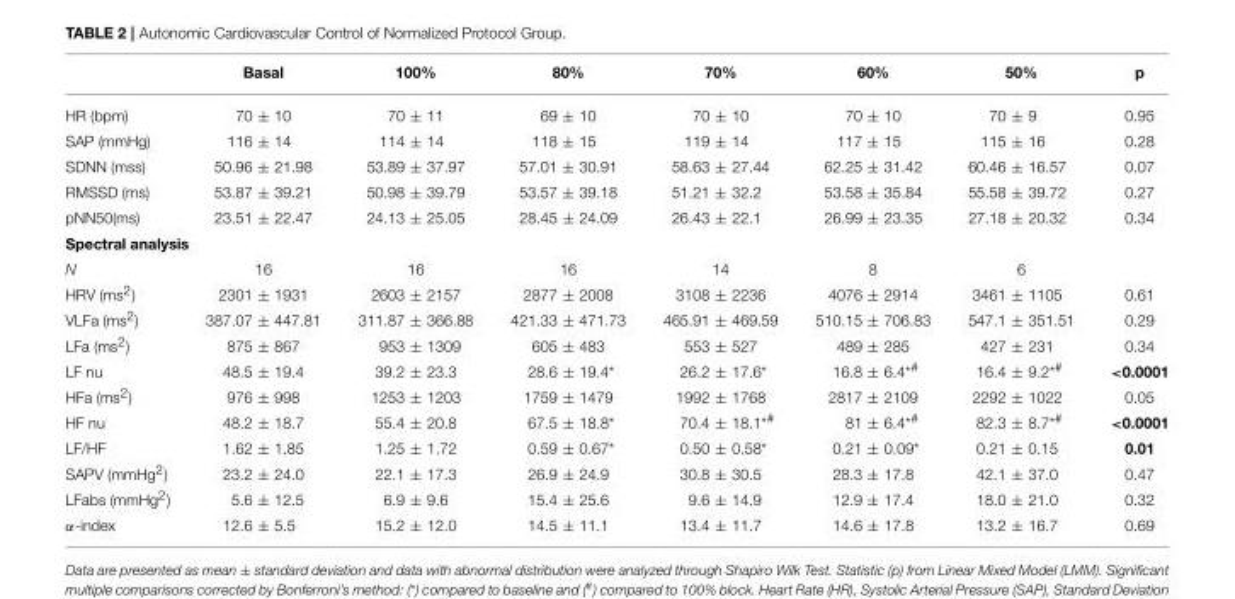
<table><thead><tr><td></td><td>Basal</td><td>100%</td><td>80%</td><td>70%</td><td>60%</td><td>50%</td><td>p</td></tr></thead><tbody><tr><td>HR (bpm)</td><td>70 ± 10</td><td>70 ± 11</td><td>69 ± 10</td><td>70 ± 10</td><td>70 ± 10</td><td>70 ± 9</td><td>0.95</td></tr><tr><td>SAP (mmHg)</td><td>116 ± 14</td><td>114 ± 14</td><td>118 ± 15</td><td>119 ± 14</td><td>117 ± 15</td><td>115 ± 16</td><td>0.28</td></tr><tr><td>SDNN (mss)</td><td>50.96 ± 21.98</td><td>53.89 ± 37.97</td><td>57.01 ± 30.91</td><td>58.63 ± 27.44</td><td>62.25 ± 31.42</td><td>60.46 ± 16.57</td><td>0.07</td></tr><tr><td>RMSSD (ms)</td><td>53.87 ± 39.21</td><td>50.98 ± 39.79</td><td>53.57 ± 39.18</td><td>51.21 ± 32.2</td><td>53.58 ± 35.84</td><td>55.58 ± 39.72</td><td>0.27</td></tr><tr><td>pNN50(ms)</td><td>23.51 ± 22.47</td><td>24.13 ± 25.05</td><td>28.45 ± 24.09</td><td>26.43 ± 22.1</td><td>26.99 ± 23.35</td><td>27.18 ± 20.32</td><td>0.34</td></tr><tr><td colspan="8">Spectral analysis</td></tr><tr><td>N</td><td>16</td><td>16</td><td>16</td><td>14</td><td>8</td><td>6</td><td></td></tr><tr><td>HRV (ms<sup>2</sup>)</td><td>2301 ± 1931</td><td>2603 ± 2157</td><td>2877 ± 2008</td><td>3108 ± 2236</td><td>4076 ± 2914</td><td>3461 ± 1105</td><td>0.61</td></tr><tr><td>VLFa (ms<sup>2</sup>)</td><td>387.07 ± 447.81</td><td>311.87 ± 366.88</td><td>421.33 ± 471.73</td><td>465.91 ± 469.59</td><td>510.15 ± 706.83</td><td>547.1 ± 351.51</td><td>0.29</td></tr><tr><td>LFa (ms<sup>2</sup>)</td><td>875 ± 867</td><td>953 ± 1309</td><td>605 ± 483</td><td>553 ± 527</td><td>489 ± 285</td><td>427 ± 231</td><td>0.34</td></tr><tr><td>LF nu</td><td>48.5 ± 19.4</td><td>39.2 ± 23.3</td><td>28.6 ± 19.4*</td><td>26.2 ± 17.6*</td><td>16.8 ± 6.4<sup>*#</sup></td><td>16.4 ± 9.2<sup>*#</sup></td><td>&lt;0.0001</td></tr><tr><td>HFa (ms<sup>2</sup>)</td><td>976 ± 998</td><td>1253 ± 1203</td><td>1759 ± 1479</td><td>1992 ± 1768</td><td>2817 ± 2109</td><td>2292 ± 1022</td><td>0.05</td></tr><tr><td>HF nu</td><td>48.2 ± 18.7</td><td>55.4 ± 20.8</td><td>67.5 ± 18.8*</td><td>70.4 ± 18.1<sup>*#</sup></td><td>81 ± 6.4<sup>*#</sup></td><td>82.3 ± 8.7<sup>*#</sup></td><td>&lt;0.0001</td></tr><tr><td>LF/HF</td><td>1.62 ± 1.85</td><td>1.25 ± 1.72</td><td>0.59 ± 0.67*</td><td>0.50 ± 0.58*</td><td>0.21 ± 0.09*</td><td>0.21 ± 0.15</td><td>0.01</td></tr><tr><td>SAPV (mmHg<sup>2</sup>)</td><td>23.2 ± 24.0</td><td>22.1 ± 17.3</td><td>26.9 ± 24.9</td><td>30.8 ± 30.5</td><td>28.3 ± 17.8</td><td>42.1 ± 37.0</td><td>0.47</td></tr><tr><td>LFabs (mmHg<sup>2</sup>)</td><td>5.6 ± 12.5</td><td>6.9 ± 9.6</td><td>15.4 ± 25.6</td><td>9.6 ± 14.9</td><td>12.9 ± 17.4</td><td>18.0 ± 21.0</td><td>0.32</td></tr><tr><td>α-index</td><td>12.6 ± 5.5</td><td>15.2 ± 12.0</td><td>14.5 ± 11.1</td><td>13.4 ± 11.7</td><td>14.6 ± 17.8</td><td>13.2 ± 16.7</td><td>0.69</td></tr></tbody></table>